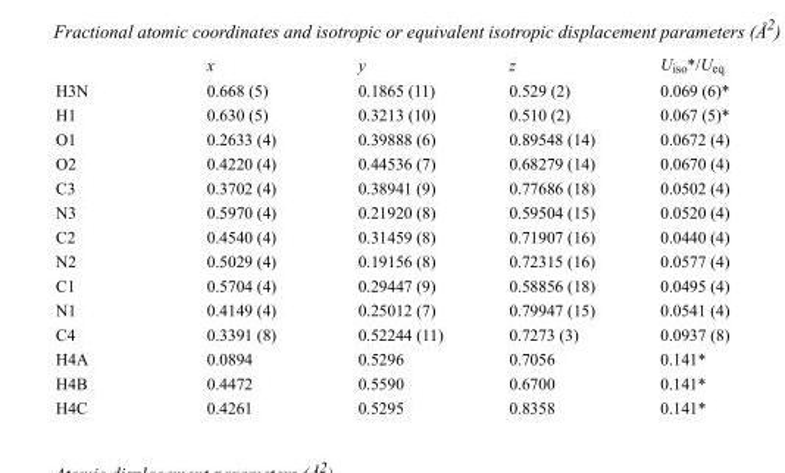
<table><thead><tr><td></td><td>x</td><td>y</td><td>z</td><td>U<sub>iso</sub>*/U<sub>eq</sub></td></tr></thead><tbody><tr><td>H3N</td><td>0.668 (5)</td><td>0.1865 (11)</td><td>0.529 (2)</td><td>0.069 (6)*</td></tr><tr><td>H1</td><td>0.630 (5)</td><td>0.3213 (10)</td><td>0.510 (2)</td><td>0.067 (5)*</td></tr><tr><td>O1</td><td>0.2633 (4)</td><td>0.39888 (6)</td><td>0.89548 (14)</td><td>0.0672 (4)</td></tr><tr><td>O2</td><td>0.4220 (4)</td><td>0.44536 (7)</td><td>0.68279 (14)</td><td>0.0670 (4)</td></tr><tr><td>C3</td><td>0.3702 (4)</td><td>0.38941 (9)</td><td>0.77686 (18)</td><td>0.0502 (4)</td></tr><tr><td>N3</td><td>0.5970 (4)</td><td>0.21920 (8)</td><td>0.59504 (15)</td><td>0.0520 (4)</td></tr><tr><td>C2</td><td>0.4540 (4)</td><td>0.31459 (8)</td><td>0.71907 (16)</td><td>0.0440 (4)</td></tr><tr><td>N2</td><td>0.5029 (4)</td><td>0.19156 (8)</td><td>0.72315 (16)</td><td>0.0577 (4)</td></tr><tr><td>C1</td><td>0.5704 (4)</td><td>0.29447 (9)</td><td>0.58856 (18)</td><td>0.0495 (4)</td></tr><tr><td>N1</td><td>0.4149 (4)</td><td>0.25012 (7)</td><td>0.79947 (15)</td><td>0.0541 (4)</td></tr><tr><td>C4</td><td>0.3391 (8)</td><td>0.52244 (11)</td><td>0.7273 (3)</td><td>0.0937 (8)</td></tr><tr><td>H4A</td><td>0.0894</td><td>0.5296</td><td>0.7056</td><td>0.141*</td></tr><tr><td>H4B</td><td>0.4472</td><td>0.5590</td><td>0.6700</td><td>0.141*</td></tr><tr><td>H4C</td><td>0.4261</td><td>0.5295</td><td>0.8358</td><td>0.141*</td></tr></tbody></table>